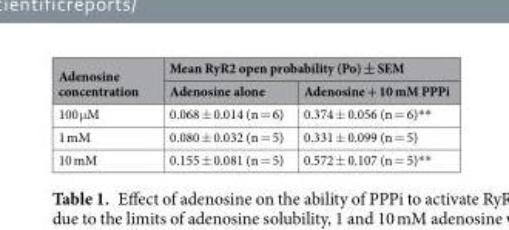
<table><thead><tr><td rowspan="2">Adenosine concentration</td><td colspan="2">Mean RyR2 open probability (Po) ± SEM</td></tr><tr><td>Adenosine alone</td><td>Adenosine + 10 mM PPPi</td></tr></thead><tbody><tr><td>100 μM</td><td>0.068 ± 0.014 (n = 6)</td><td>0.374 ± 0.056 (n = 6)**</td></tr><tr><td>1 mM</td><td>0.080 ± 0.032 (n = 5)</td><td>0.331 ± 0.099 (n = 5)</td></tr><tr><td>10 mM</td><td>0.155 ± 0.081 (n = 5)</td><td>0.572 ± 0.107 (n = 5)**</td></tr></tbody></table>